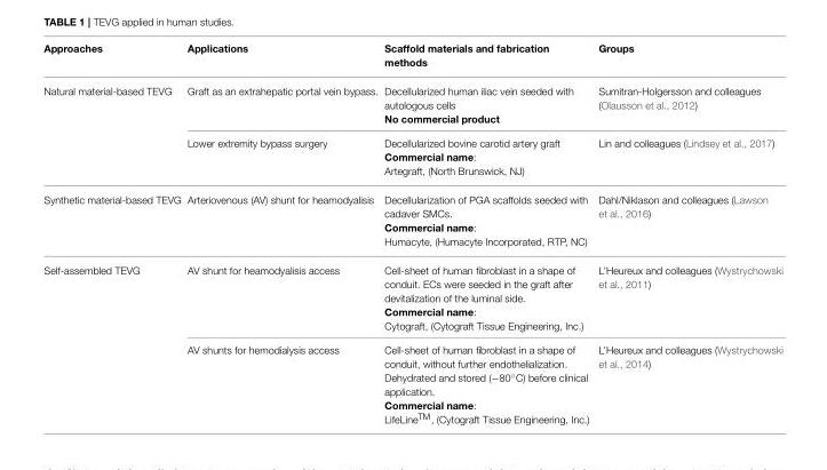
<table><thead><tr><td>Approaches</td><td>Applications</td><td>Scaffold materials and fabrication methods</td><td>Groups</td></tr></thead><tbody><tr><td rowspan="2">Natural material-based TEVG</td><td>Graft as an extrahepatic portal vein bypass.</td><td>Decellularized human iliac vein seeded with autologous cells No commercial product</td><td>Sumitran-Holgersson and colleagues (Olausson et al., 2012)</td></tr><tr><td>Lower extremity bypass surgery</td><td>Decellularized bovine carotid artery graft Commercial name: Artegraft, (North Brunswick, NJ)</td><td>Lin and colleagues (Lindsey et al., 2017)</td></tr><tr><td>Synthetic material-based TEVG</td><td>Arteriovenous (AV) shunt for heamodyalisis</td><td>Decellularization of PGA scaffolds seeded with cadaver SMCs. Commercial name: Humacyte, (Humacyte Incorporated, RTP, NC)</td><td>Dahl/Niklason and colleagues (Lawson et al., 2016)</td></tr><tr><td rowspan="2">Self-assembled TEVG</td><td>AV shunt for heamodyalisis access</td><td>Cell-sheet of human fibroblast in a shape of conduit. ECs were seeded in the graft after devitalization of the luminal side. Commercial name: Cytograft, (Cytograft Tissue Engineering, Inc.)</td><td>L’Heureux and colleagues (Wystrychowski et al., 2011)</td></tr><tr><td>AV shunts for hemodialysis access</td><td>Cell-sheet of human fibroblast in a shape of conduit, without further endothelialization. Dehydrated and stored (−80◦C) before clinical application. Commercial name: LifeLineTM, (Cytograft Tissue Engineering, Inc.)</td><td>L’Heureux and colleagues (Wystrychowski et al., 2014)</td></tr></tbody></table>